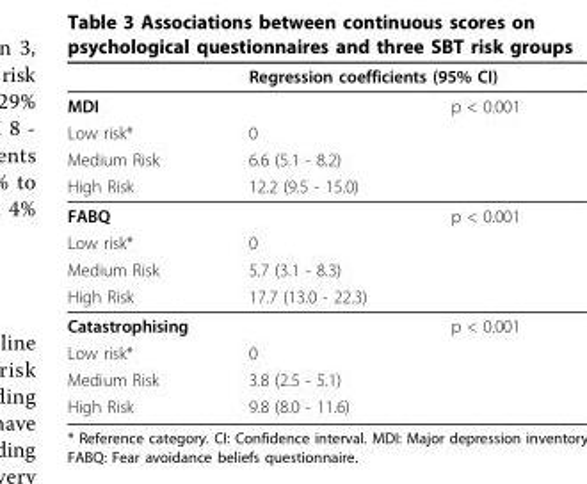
<table><thead><tr><td rowspan="2">MDI</td><td colspan="2">Regression coefficients (95% CI)</td></tr><tr><td></td><td>p &lt; 0.001</td></tr></thead><tbody><tr><td>Low risk*</td><td>0</td><td></td></tr><tr><td>Medium Risk</td><td>6.6 (5.1 - 8.2)</td><td></td></tr><tr><td>High Risk</td><td>12.2 (9.5 - 15.0)</td><td></td></tr><tr><td>FABQ</td><td></td><td>p &lt; 0.001</td></tr><tr><td>Low risk*</td><td>0</td><td></td></tr><tr><td>Medium Risk</td><td>5.7 (3.1 - 8.3)</td><td></td></tr><tr><td>High Risk</td><td>17.7 (13.0 - 22.3)</td><td></td></tr><tr><td>Catastrophising</td><td></td><td>p &lt; 0.001</td></tr><tr><td>Low risk*</td><td>0</td><td></td></tr><tr><td>Medium Risk</td><td>3.8 (2.5 - 5.1)</td><td></td></tr><tr><td>High Risk</td><td>9.8 (8.0 - 11.6)</td><td></td></tr></tbody></table>